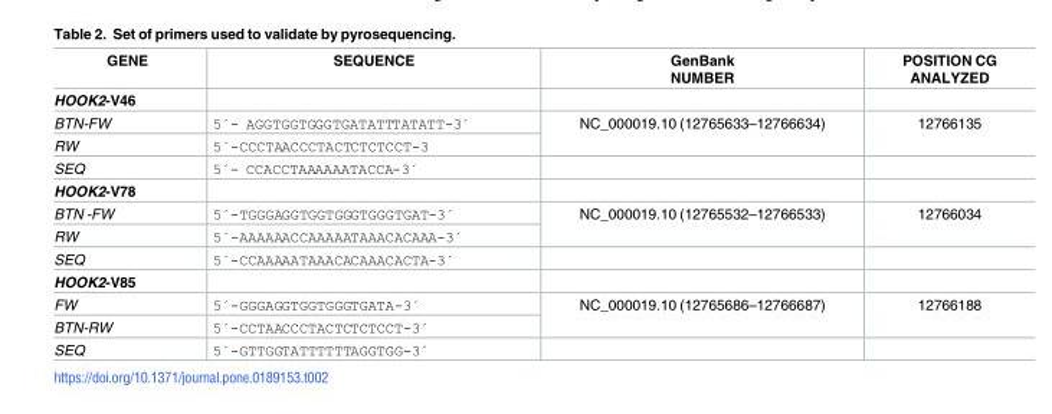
<table><thead><tr><td>GENE</td><td>SEQUENCE</td><td>GenBank NUMBER</td><td>POSITION CG ANALYZED</td></tr></thead><tbody><tr><td colspan="4">HOOK2-V46</td></tr><tr><td>BTN-FW</td><td>5´- AGGTGGTGGGTGATATTTATATT-3´</td><td rowspan="2">NC_000019.10 (12765633–12766634)</td><td rowspan="2">12766135</td></tr><tr><td>RW</td><td>5´-CCCTAACCCTACTCTCTCCT-3</td></tr><tr><td>SEQ</td><td>5´- CCACCTAAAAAATACCA-3´</td><td></td><td></td></tr><tr><td colspan="4">HOOK2-V78</td></tr><tr><td>BTN -FW</td><td>5´-TGGGAGGTGGTGGGTGGGTGAT-3´</td><td rowspan="2">NC_000019.10 (12765532–12766533)</td><td rowspan="2">12766034</td></tr><tr><td>RW</td><td>5´-AAAAAACCAAAAATAAACACAAA-3´</td></tr><tr><td>SEQ</td><td>5´-CCAAAAATAAACACAAACACTA-3´</td><td></td><td></td></tr><tr><td colspan="4">HOOK2-V85</td></tr><tr><td>FW</td><td>5´-GGGAGGTGGTGGGTGATA-3´</td><td rowspan="2">NC_000019.10 (12765686–12766687)</td><td rowspan="2">12766188</td></tr><tr><td>BTN-RW</td><td>5´-CCTAACCCTACTCTCTCCT-3´</td></tr><tr><td>SEQ</td><td>5´-GTTGGTATTTTTTAGGTGG-3´</td><td></td><td></td></tr></tbody></table>